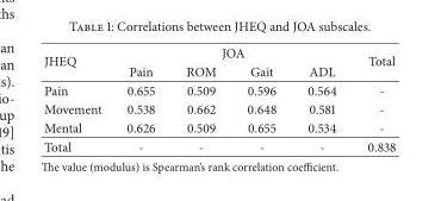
<table><thead><tr><td rowspan="2">JHEQ</td><td colspan="4">JOA</td><td rowspan="2">Total</td></tr><tr><td>Pain</td><td>ROM</td><td>Gait</td><td>ADL</td></tr></thead><tbody><tr><td>Pain</td><td>0.655</td><td>0.509</td><td>0.596</td><td>0.564</td><td>-</td></tr><tr><td>Movement</td><td>0.538</td><td>0.662</td><td>0.648</td><td>0.581</td><td>-</td></tr><tr><td>Mental</td><td>0.626</td><td>0.509</td><td>0.655</td><td>0.534</td><td>-</td></tr><tr><td>Total</td><td>-</td><td>-</td><td>-</td><td>-</td><td>0.838</td></tr></tbody></table>